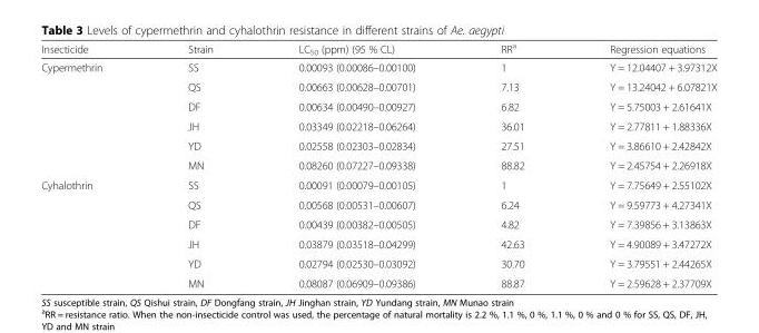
<table><thead><tr><td>Insecticide</td><td>Strain</td><td>LC<sub>50</sub> (ppm) (95 % CL)</td><td>RR<sup>a</sup></td><td>Regression equations</td></tr></thead><tbody><tr><td rowspan="6">Cypermethrin</td><td>SS</td><td>0.00093 (0.00086–0.00100)</td><td>1</td><td>Y = 12.04407 + 3.97312X</td></tr><tr><td>QS</td><td>0.00663 (0.00628–0.00701)</td><td>7.13</td><td>Y = 13.24042 + 6.07821X</td></tr><tr><td>DF</td><td>0.00634 (0.00490–0.00927)</td><td>6.82</td><td>Y = 5.75003 + 2.61641X</td></tr><tr><td>JH</td><td>0.03349 (0.02218–0.06264)</td><td>36.01</td><td>Y = 2.77811 + 1.88336X</td></tr><tr><td>YD</td><td>0.02558 (0.02303–0.02834)</td><td>27.51</td><td>Y = 3.86610 + 2.42842X</td></tr><tr><td>MN</td><td>0.08260 (0.07227–0.09338)</td><td>88.82</td><td>Y = 2.45754 + 2.26918X</td></tr><tr><td rowspan="6">Cyhalothrin</td><td>SS</td><td>0.00091 (0.00079–0.00105)</td><td>1</td><td>Y = 7.75649 + 2.55102X</td></tr><tr><td>QS</td><td>0.00568 (0.00531–0.00607)</td><td>6.24</td><td>Y = 9.59773 + 4.27341X</td></tr><tr><td>DF</td><td>0.00439 (0.00382–0.00505)</td><td>4.82</td><td>Y = 7.39856 + 3.13863X</td></tr><tr><td>JH</td><td>0.03879 (0.03518–0.04299)</td><td>42.63</td><td>Y = 4.90089 + 3.47272X</td></tr><tr><td>YD</td><td>0.02794 (0.02530–0.03092)</td><td>30.70</td><td>Y = 3.79551 + 2.44265X</td></tr><tr><td>MN</td><td>0.08087 (0.06909–0.09386)</td><td>88.87</td><td>Y = 2.59628 + 2.37709X</td></tr></tbody></table>